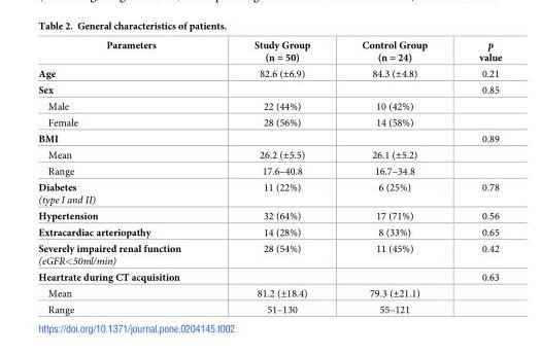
<table><thead><tr><td>Parameters</td><td>Study Group (n = 50)</td><td>Control Group (n = 24)</td><td>p value</td></tr></thead><tbody><tr><td>Age</td><td>82.6 (±6.9)</td><td>84.3 (±4.8)</td><td>0.21</td></tr><tr><td>Sex</td><td></td><td></td><td>0.85</td></tr><tr><td>Male</td><td>22 (44%)</td><td>10 (42%)</td><td></td></tr><tr><td>Female</td><td>28 (56%)</td><td>14 (58%)</td><td></td></tr><tr><td>BMI</td><td></td><td></td><td>0.89</td></tr><tr><td>Mean</td><td>26.2 (±5.5)</td><td>26.1 (±5.2)</td><td></td></tr><tr><td>Range</td><td>17.6–40.8</td><td>16.7–34.8</td><td></td></tr><tr><td>Diabetes (type I and II)</td><td>11 (22%)</td><td>6 (25%)</td><td>0.78</td></tr><tr><td>Hypertension</td><td>32 (64%)</td><td>17 (71%)</td><td>0.56</td></tr><tr><td>Extracardiac arteriopathy</td><td>14 (28%)</td><td>8 (33%)</td><td>0.65</td></tr><tr><td>Severely impaired renal function (eGFR&lt;50ml/min)</td><td>28 (54%)</td><td>11 (45%)</td><td>0.42</td></tr><tr><td>Heartrate during CT acquisition</td><td></td><td></td><td>0.63</td></tr><tr><td>Mean</td><td>81.2 (±18.4)</td><td>79.3 (±21.1)</td><td></td></tr><tr><td>Range</td><td>51–130</td><td>55–121</td><td></td></tr></tbody></table>